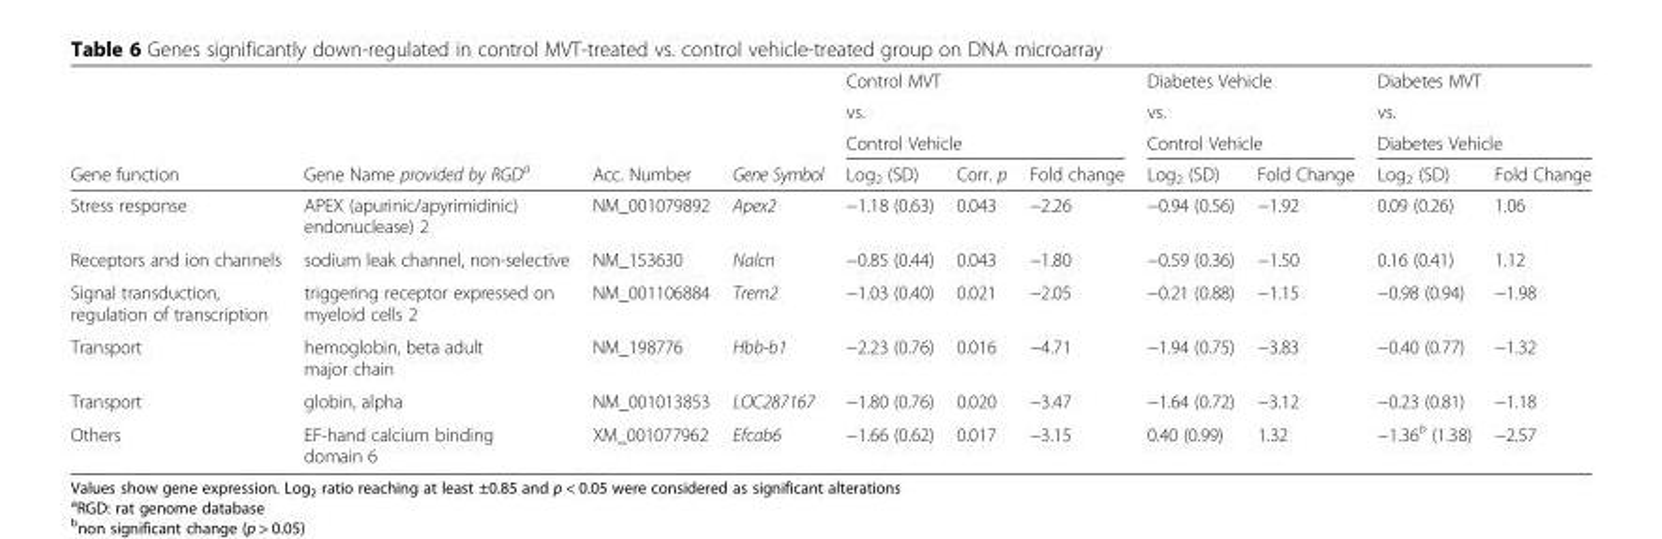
<table><thead><tr><td rowspan="4">Gene function</td><td rowspan="4">Gene Name provided by RGD<sup>a</sup></td><td rowspan="4">Acc. Number</td><td rowspan="4">Gene Symbol</td><td rowspan="3" colspan="3">Control MVT vs. Control Vehicle</td><td rowspan="3" colspan="2">Diabetes Vehicle vs. Control Vehicle</td><td rowspan="3" colspan="2">Diabetes MVT vs. Diabetes Vehicle</td></tr><tr></tr><tr></tr><tr><td>Log<sub>2</sub> (SD)</td><td>Corr. p</td><td>Fold change</td><td>Log<sub>2</sub> (SD)</td><td>Fold Change</td><td>Log<sub>2</sub> (SD)</td><td>Fold Change</td></tr></thead><tbody><tr><td>Stress response</td><td>APEX (apurinic/apyrimidinic) endonuclease) 2</td><td>NM_001079892</td><td>Apex2</td><td>−1.18 (0.63)</td><td>0.043</td><td>−2.26</td><td>−0.94 (0.56)</td><td>−1.92</td><td>0.09 (0.26)</td><td>1.06</td></tr><tr><td>Receptors and ion channels</td><td>sodium leak channel, non-selective</td><td>NM_153630</td><td>Nalcn</td><td>−0.85 (0.44)</td><td>0.043</td><td>−1.80</td><td>−0.59 (0.36)</td><td>−1.50</td><td>0.16 (0.41)</td><td>1.12</td></tr><tr><td>Signal transduction, regulation of transcription</td><td>triggering receptor expressed on myeloid cells 2</td><td>NM_001106884</td><td>Trem2</td><td>−1.03 (0.40)</td><td>0.021</td><td>−2.05</td><td>−0.21 (0.88)</td><td>−1.15</td><td>−0.98 (0.94)</td><td>−1.98</td></tr><tr><td>Transport</td><td>hemoglobin, beta adult major chain</td><td>NM_198776</td><td>Hbb-b1</td><td>−2.23 (0.76)</td><td>0.016</td><td>−4.71</td><td>−1.94 (0.75)</td><td>−3.83</td><td>−0.40 (0.77)</td><td>−1.32</td></tr><tr><td>Transport</td><td>globin, alpha</td><td>NM_001013853</td><td>LOC287167</td><td>−1.80 (0.76)</td><td>0.020</td><td>−3.47</td><td>−1.64 (0.72)</td><td>−3.12</td><td>−0.23 (0.81)</td><td>−1.18</td></tr><tr><td>Others</td><td>EF-hand calcium binding domain 6</td><td>XM_001077962</td><td>Efcab6</td><td>−1.66 (0.62)</td><td>0.017</td><td>−3.15</td><td>0.40 (0.99)</td><td>1.32</td><td>−1.36<sup>b</sup> (1.38)</td><td>−2.57</td></tr></tbody></table>